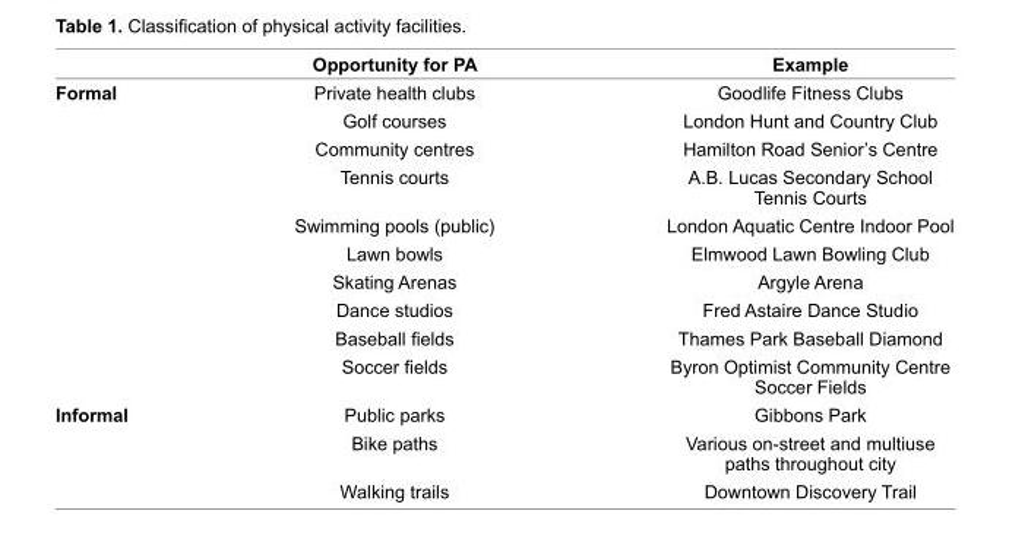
<table><thead><tr><td></td><td>Opportunity for PA</td><td>Example</td></tr></thead><tbody><tr><td rowspan="10">Formal</td><td>Private health clubs</td><td>Goodlife Fitness Clubs</td></tr><tr><td>Golf courses</td><td>London Hunt and Country Club</td></tr><tr><td>Community centres</td><td>Hamilton Road Senior’s Centre</td></tr><tr><td>Tennis courts</td><td>A.B. Lucas Secondary School Tennis Courts</td></tr><tr><td>Swimming pools (public)</td><td>London Aquatic Centre Indoor Pool</td></tr><tr><td>Lawn bowls</td><td>Elmwood Lawn Bowling Club</td></tr><tr><td>Skating Arenas</td><td>Argyle Arena</td></tr><tr><td>Dance studios</td><td>Fred Astaire Dance Studio</td></tr><tr><td>Baseball fi elds</td><td>Thames Park Baseball Diamond</td></tr><tr><td>Soccer fi elds</td><td>Byron Optimist Community Centre Soccer Fields</td></tr><tr><td rowspan="3">Informal</td><td>Public parks</td><td>Gibbons Park</td></tr><tr><td>Bike paths</td><td>Various on-street and multiuse paths throughout city</td></tr><tr><td>Walking trails</td><td>Downtown Discovery Trail</td></tr></tbody></table>